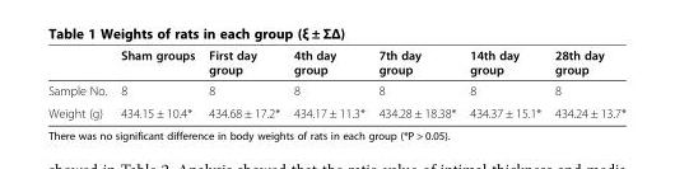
<table><thead><tr><td></td><td>Sham groups</td><td>First day group</td><td>4th day group</td><td>7th day group</td><td>14th day group</td><td>28th day group</td></tr></thead><tbody><tr><td>Sample No.</td><td>8</td><td>8</td><td>8</td><td>8</td><td>8</td><td>8</td></tr><tr><td>Weight (g)</td><td>434.15 ± 10.4*</td><td>434.68 ± 17.2*</td><td>434.17 ± 11.3*</td><td>434.28 ± 18.38*</td><td>434.37 ± 15.1*</td><td>434.24 ± 13.7*</td></tr></tbody></table>